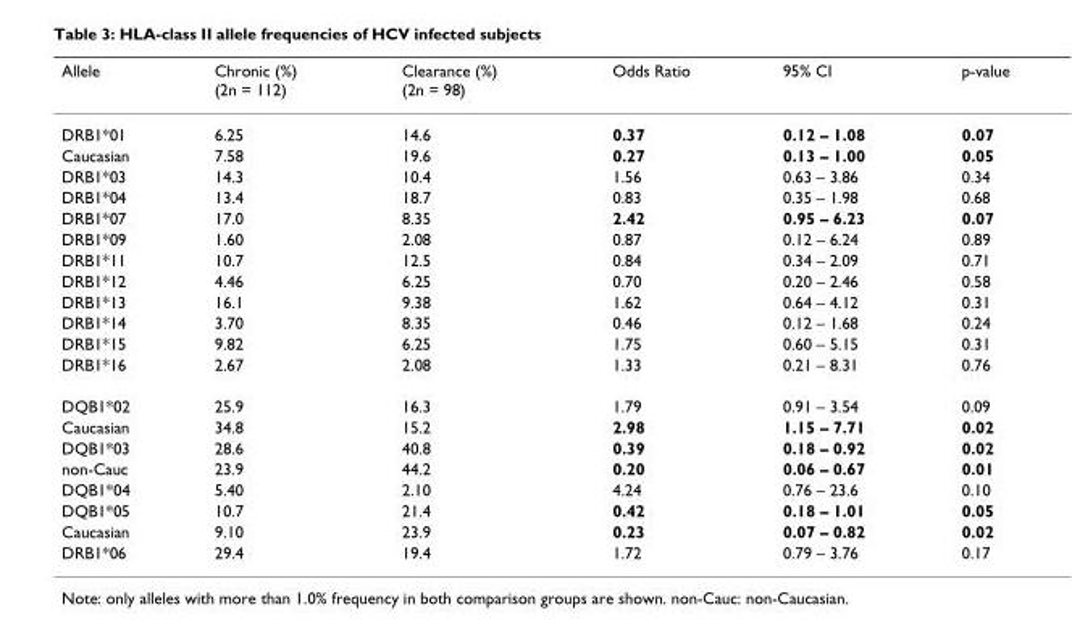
<table><thead><tr><td>Allele</td><td>Chronic (%) (2n = 112)</td><td>Clearance (%) (2n = 98)</td><td>Odds Ratio</td><td>95% CI</td><td>p-value</td></tr></thead><tbody><tr><td>DRB1*01</td><td>6.25</td><td>14.6</td><td>0.37</td><td>0.12 – 1.08</td><td>0.07</td></tr><tr><td>Caucasian</td><td>7.58</td><td>19.6</td><td>0.27</td><td>0.13 – 1.00</td><td>0.05</td></tr><tr><td>DRB1*03</td><td>14.3</td><td>10.4</td><td>1.56</td><td>0.63 – 3.86</td><td>0.34</td></tr><tr><td>DRB1*04</td><td>13.4</td><td>18.7</td><td>0.83</td><td>0.35 – 1.98</td><td>0.68</td></tr><tr><td>DRB1*07</td><td>17.0</td><td>8.35</td><td>2.42</td><td>0.95 – 6.23</td><td>0.07</td></tr><tr><td>DRB1*09</td><td>1.60</td><td>2.08</td><td>0.87</td><td>0.12 – 6.24</td><td>0.89</td></tr><tr><td>DRB1*11</td><td>10.7</td><td>12.5</td><td>0.84</td><td>0.34 – 2.09</td><td>0.71</td></tr><tr><td>DRB1*12</td><td>4.46</td><td>6.25</td><td>0.70</td><td>0.20 – 2.46</td><td>0.58</td></tr><tr><td>DRB1*13</td><td>16.1</td><td>9.38</td><td>1.62</td><td>0.64 – 4.12</td><td>0.31</td></tr><tr><td>DRB1*14</td><td>3.70</td><td>8.35</td><td>0.46</td><td>0.12 – 1.68</td><td>0.24</td></tr><tr><td>DRB1*15</td><td>9.82</td><td>6.25</td><td>1.75</td><td>0.60 – 5.15</td><td>0.31</td></tr><tr><td>DRB1*16</td><td>2.67</td><td>2.08</td><td>1.33</td><td>0.21 – 8.31</td><td>0.76</td></tr><tr><td>DQB1*02</td><td>25.9</td><td>16.3</td><td>1.79</td><td>0.91 – 3.54</td><td>0.09</td></tr><tr><td>Caucasian</td><td>34.8</td><td>15.2</td><td>2.98</td><td>1.15 – 7.71</td><td>0.02</td></tr><tr><td>DQB1*03</td><td>28.6</td><td>40.8</td><td>0.39</td><td>0.18 – 0.92</td><td>0.02</td></tr><tr><td>non-Cauc</td><td>23.9</td><td>44.2</td><td>0.20</td><td>0.06 – 0.67</td><td>0.01</td></tr><tr><td>DQB1*04</td><td>5.40</td><td>2.10</td><td>4.24</td><td>0.76 – 23.6</td><td>0.10</td></tr><tr><td>DQB1*05</td><td>10.7</td><td>21.4</td><td>0.42</td><td>0.18 – 1.01</td><td>0.05</td></tr><tr><td>Caucasian</td><td>9.10</td><td>23.9</td><td>0.23</td><td>0.07 – 0.82</td><td>0.02</td></tr><tr><td>DRB1*06</td><td>29.4</td><td>19.4</td><td>1.72</td><td>0.79 – 3.76</td><td>0.17</td></tr></tbody></table>